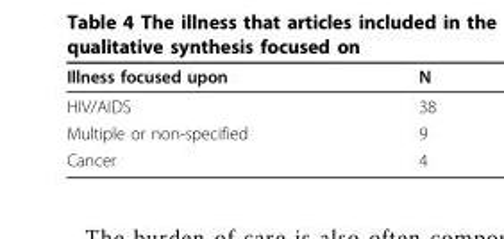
<table><thead><tr><td>Illness focused upon</td><td>N</td></tr></thead><tbody><tr><td>HIV/AIDS</td><td>38</td></tr><tr><td>Multiple or non-specified</td><td>9</td></tr><tr><td>Cancer</td><td>4</td></tr></tbody></table>